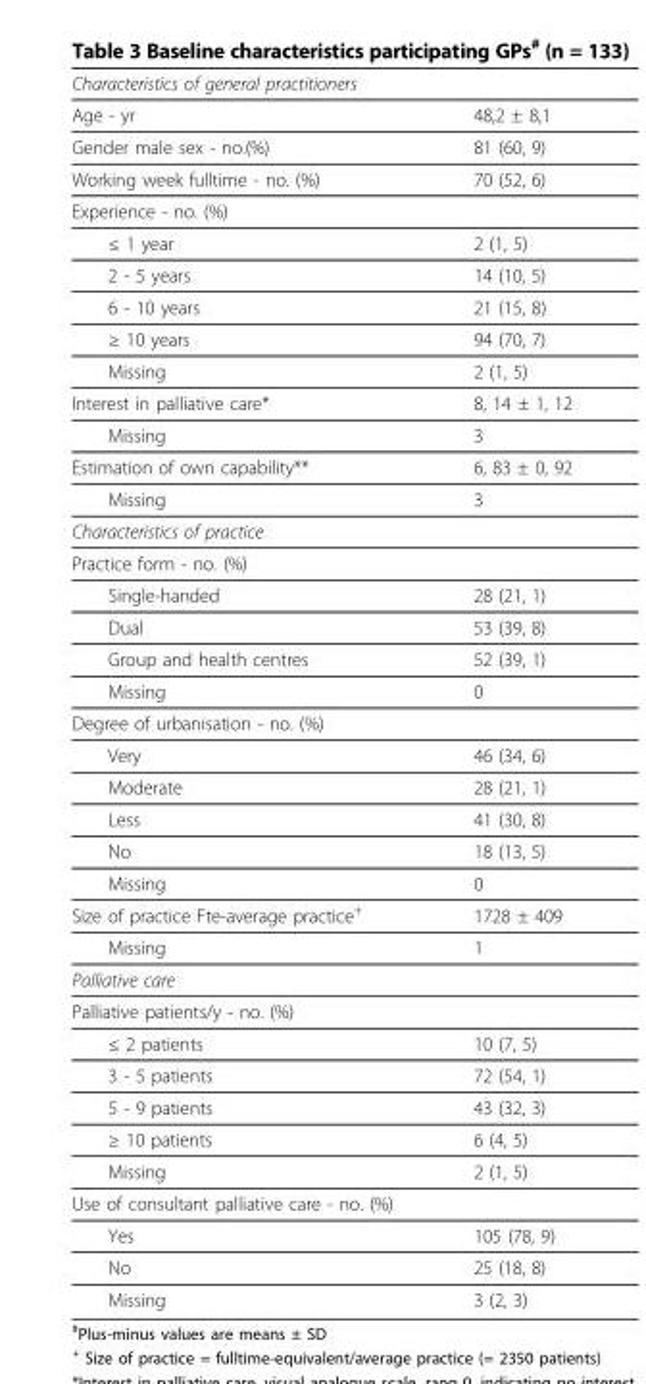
<table><thead><tr><td>Characteristics of general practitioners</td><td></td></tr></thead><tbody><tr><td>Age - yr</td><td>48,2 ± 8,1</td></tr><tr><td>Gender male sex - no.(%)</td><td>81 (60, 9)</td></tr><tr><td>Working week fulltime - no. (%)</td><td>70 (52, 6)</td></tr><tr><td colspan="2">Experience - no. (%)</td></tr><tr><td>≤ 1 year</td><td>2 (1, 5)</td></tr><tr><td>2 - 5 years</td><td>14 (10, 5)</td></tr><tr><td>6 - 10 years</td><td>21 (15, 8)</td></tr><tr><td>≥ 10 years</td><td>94 (70, 7)</td></tr><tr><td>Missing</td><td>2 (1, 5)</td></tr><tr><td>Interest in palliative care*</td><td>8, 14 ± 1, 12</td></tr><tr><td>Missing</td><td>3</td></tr><tr><td>Estimation of own capability**</td><td>6, 83 ± 0, 92</td></tr><tr><td>Missing</td><td>3</td></tr><tr><td colspan="2">Characteristics of practice</td></tr><tr><td colspan="2">Practice form - no. (%)</td></tr><tr><td>Single-handed</td><td>28 (21, 1)</td></tr><tr><td>Dual</td><td>53 (39, 8)</td></tr><tr><td>Group and health centres</td><td>52 (39, 1)</td></tr><tr><td>Missing</td><td>0</td></tr><tr><td colspan="2">Degree of urbanisation - no. (%)</td></tr><tr><td>Very</td><td>46 (34, 6)</td></tr><tr><td>Moderate</td><td>28 (21, 1)</td></tr><tr><td>Less</td><td>41 (30, 8)</td></tr><tr><td>No</td><td>18 (13, 5)</td></tr><tr><td>Missing</td><td>0</td></tr><tr><td>Size of practice Fte-average practice<sup>+</sup></td><td>1728 ± 409</td></tr><tr><td>Missing</td><td>1</td></tr><tr><td colspan="2">Palliative care</td></tr><tr><td colspan="2">Palliative patients/y - no. (%)</td></tr><tr><td>≤ 2 patients</td><td>10 (7, 5)</td></tr><tr><td>3 - 5 patients</td><td>72 (54, 1)</td></tr><tr><td>5 - 9 patients</td><td>43 (32, 3)</td></tr><tr><td>≥ 10 patients</td><td>6 (4, 5)</td></tr><tr><td>Missing</td><td>2 (1, 5)</td></tr><tr><td colspan="2">Use of consultant palliative care - no. (%)</td></tr><tr><td>Yes</td><td>105 (78, 9)</td></tr><tr><td>No</td><td>25 (18, 8)</td></tr><tr><td>Missing</td><td>3 (2, 3)</td></tr></tbody></table>